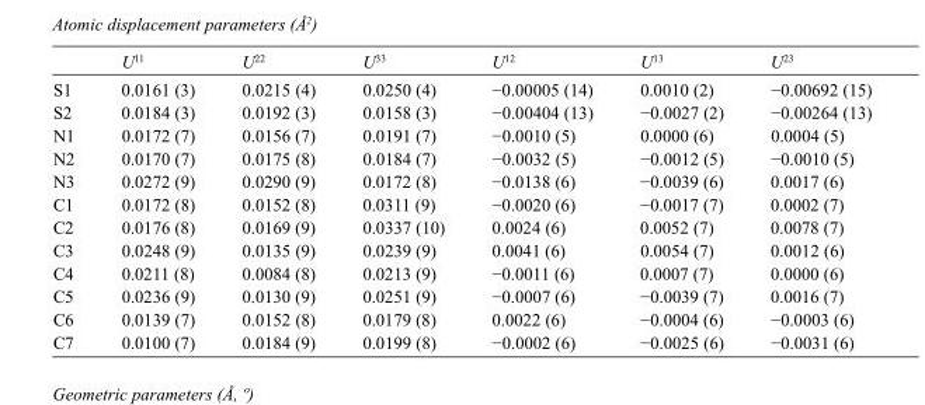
<table><thead><tr><td></td><td>U<sup>11</sup></td><td>U<sup>22</sup></td><td>U<sup>33</sup></td><td>U<sup>12</sup></td><td>U<sup>13</sup></td><td>U<sup>23</sup></td></tr></thead><tbody><tr><td>S1</td><td>0.0161 (3)</td><td>0.0215 (4)</td><td>0.0250 (4)</td><td>−0.00005 (14)</td><td>0.0010 (2)</td><td>−0.00692 (15)</td></tr><tr><td>S2</td><td>0.0184 (3)</td><td>0.0192 (3)</td><td>0.0158 (3)</td><td>−0.00404 (13)</td><td>−0.0027 (2)</td><td>−0.00264 (13)</td></tr><tr><td>N1</td><td>0.0172 (7)</td><td>0.0156 (7)</td><td>0.0191 (7)</td><td>−0.0010 (5)</td><td>0.0000 (6)</td><td>0.0004 (5)</td></tr><tr><td>N2</td><td>0.0170 (7)</td><td>0.0175 (8)</td><td>0.0184 (7)</td><td>−0.0032 (5)</td><td>−0.0012 (5)</td><td>−0.0010 (5)</td></tr><tr><td>N3</td><td>0.0272 (9)</td><td>0.0290 (9)</td><td>0.0172 (8)</td><td>−0.0138 (6)</td><td>−0.0039 (6)</td><td>0.0017 (6)</td></tr><tr><td>C1</td><td>0.0172 (8)</td><td>0.0152 (8)</td><td>0.0311 (9)</td><td>−0.0020 (6)</td><td>−0.0017 (7)</td><td>0.0002 (7)</td></tr><tr><td>C2</td><td>0.0176 (8)</td><td>0.0169 (9)</td><td>0.0337 (10)</td><td>0.0024 (6)</td><td>0.0052 (7)</td><td>0.0078 (7)</td></tr><tr><td>C3</td><td>0.0248 (9)</td><td>0.0135 (9)</td><td>0.0239 (9)</td><td>0.0041 (6)</td><td>0.0054 (7)</td><td>0.0012 (6)</td></tr><tr><td>C4</td><td>0.0211 (8)</td><td>0.0084 (8)</td><td>0.0213 (9)</td><td>−0.0011 (6)</td><td>0.0007 (7)</td><td>0.0000 (6)</td></tr><tr><td>C5</td><td>0.0236 (9)</td><td>0.0130 (9)</td><td>0.0251 (9)</td><td>−0.0007 (6)</td><td>−0.0039 (7)</td><td>0.0016 (7)</td></tr><tr><td>C6</td><td>0.0139 (7)</td><td>0.0152 (8)</td><td>0.0179 (8)</td><td>0.0022 (6)</td><td>−0.0004 (6)</td><td>−0.0003 (6)</td></tr><tr><td>C7</td><td>0.0100 (7)</td><td>0.0184 (9)</td><td>0.0199 (8)</td><td>−0.0002 (6)</td><td>−0.0025 (6)</td><td>−0.0031 (6)</td></tr></tbody></table>